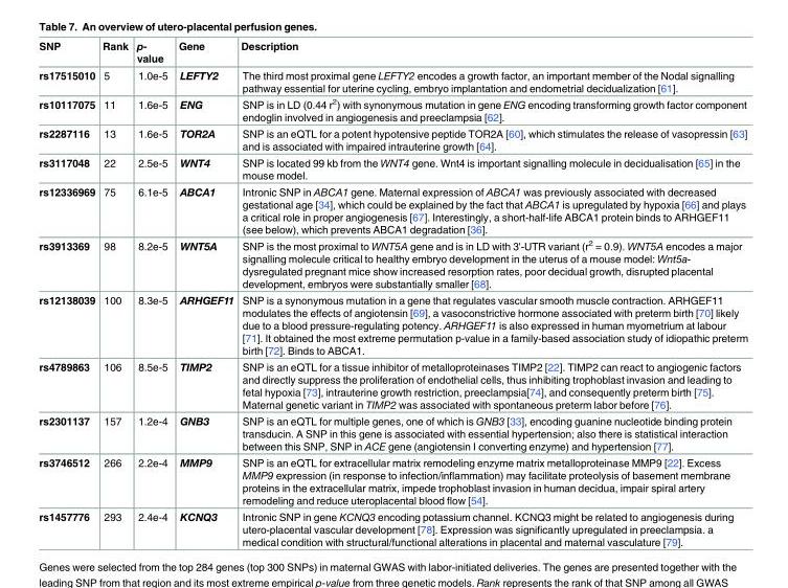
<table><thead><tr><td>SNP</td><td>Rank</td><td>p- value</td><td>Gene</td><td>Description</td></tr></thead><tbody><tr><td>rs17515010</td><td>5</td><td>1.0e-5</td><td>LEFTY2</td><td>The third most proximal gene LEFTY2 encodes a growth factor, an important member of the Nodal signalling pathway essential for uterine cycling, embryo implantation and endometrial decidualization [61].</td></tr><tr><td>rs10117075</td><td>11</td><td>1.6e-5</td><td>ENG</td><td>SNP is in LD (0.44 r<sup>2</sup>) with synonymous mutation in gene ENG encoding transforming growth factor component endoglin involved in angiogenesis and preeclampsia [62].</td></tr><tr><td>rs2287116</td><td>13</td><td>1.6e-5</td><td>TOR2A</td><td>SNP is an eQTL for a potent hypotensive peptide TOR2A [60], which stimulates the release of vasopressin [63] and is associated with impaired intrauterine growth [64].</td></tr><tr><td>rs3117048</td><td>22</td><td>2.5e-5</td><td>WNT4</td><td>SNP is located 99 kb from the WNT4 gene. Wnt4 is important signalling molecule in decidualisation [65] in the mouse model.</td></tr><tr><td>rs12336969</td><td>75</td><td>6.1e-5</td><td>ABCA1</td><td>Intronic SNP in ABCA1 gene. Maternal expression of ABCA1 was previously associated with decreased gestational age [34], which could be explained by the fact that ABCA1 is upregulated by hypoxia [66] and plays a critical role in proper angiogenesis [67]. Interestingly, a short-half-life ABCA1 protein binds to ARHGEF11 (see below), which prevents ABCA1 degradation [36].</td></tr><tr><td>rs3913369</td><td>98</td><td>8.2e-5</td><td>WNT5A</td><td>SNP is the most proximal to WNT5A gene and is in LD with 3&#x27;-UTR variant (r<sup>2</sup> = 0.9). WNT5A encodes a major signalling molecule critical to healthy embryo development in the uterus of a mouse model: Wnt5a- dysregulated pregnant mice show increased resorption rates, poor decidual growth, disrupted placental development, embryos were substantially smaller [68].</td></tr><tr><td>rs12138039</td><td>100</td><td>8.3e-5</td><td>ARHGEF11</td><td>SNP is a synonymous mutation in a gene that regulates vascular smooth muscle contraction. ARHGEF11 modulates the effects of angiotensin [69], a vasoconstrictive hormone associated with preterm birth [70] likely due to a blood pressure-regulating potency. ARHGEF11 is also expressed in human myometrium at labour [71]. It obtained the most extreme permutation p-value in a family-based association study of idiopathic preterm birth [72]. Binds to ABCA1.</td></tr><tr><td>rs4789863</td><td>106</td><td>8.5e-5</td><td>TIMP2</td><td>SNP is an eQTL for a tissue inhibitor of metalloproteinases TIMP2 [22]. TIMP2 can react to angiogenic factors and directly suppress the proliferation of endothelial cells, thus inhibiting trophoblast invasion and leading to fetal hypoxia [73], intrauterine growth restriction, preeclampsia[74], and consequently preterm birth [75]. Maternal genetic variant in TIMP2 was associated with spontaneous preterm labor before [76].</td></tr><tr><td>rs2301137</td><td>157</td><td>1.2e-4</td><td>GNB3</td><td>SNP is an eQTL for multiple genes, one of which is GNB3 [33], encoding guanine nucleotide binding protein transducin. A SNP in this gene is associated with essential hypertension; also there is statistical interaction between this SNP, SNP in ACE gene (angiotensin I converting enzyme) and hypertension [77].</td></tr><tr><td>rs3746512</td><td>266</td><td>2.2e-4</td><td>MMP9</td><td>SNP is an eQTL for extracellular matrix remodeling enzyme matrix metalloproteinase MMP9 [22]. Excess MMP9 expression (in response to infection/inflammation) may facilitate proteolysis of basement membrane proteins in the extracellular matrix, impede trophoblast invasion in human decidua, impair spiral artery remodeling and reduce uteroplacental blood flow [54].</td></tr><tr><td>rs1457776</td><td>293</td><td>2.4e-4</td><td>KCNQ3</td><td>Intronic SNP in gene KCNQ3 encoding potassium channel. KCNQ3 might be related to angiogenesis during utero-placental vascular development [78]. Expression was significantly upregulated in preeclampsia. a medical condition with structural/functional alterations in placental and maternal vasculature [79].</td></tr></tbody></table>